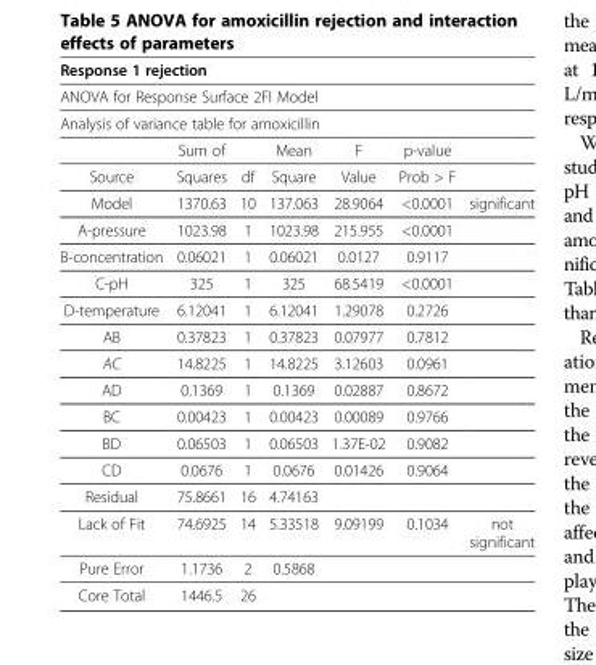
<table><thead><tr><td rowspan="3" colspan="7">Response 1 rejection ANOVA for Response Surface 2FI Model Analysis of variance table for amoxicillin</td></tr><tr></tr><tr></tr><tr><td></td><td>Sum of</td><td></td><td>Mean</td><td>F</td><td>p-value</td><td></td></tr></thead><tbody><tr><td>Source</td><td>Squares</td><td>df</td><td>Square</td><td>Value</td><td>Prob &gt; F</td><td></td></tr><tr><td>Model</td><td>1370.63</td><td>10</td><td>137.063</td><td>28.9064</td><td>&lt;0.0001</td><td>significant</td></tr><tr><td>A-pressure</td><td>1023.98</td><td>1</td><td>1023.98</td><td>215.955</td><td>&lt;0.0001</td><td></td></tr><tr><td>B-concentration</td><td>0.06021</td><td>1</td><td>0.06021</td><td>0.0127</td><td>0.9117</td><td></td></tr><tr><td>C-pH</td><td>325</td><td>1</td><td>325</td><td>68.5419</td><td>&lt;0.0001</td><td></td></tr><tr><td>D-temperature</td><td>6.12041</td><td>1</td><td>6.12041</td><td>1.29078</td><td>0.2726</td><td></td></tr><tr><td>AB</td><td>0.37823</td><td>1</td><td>0.37823</td><td>0.07977</td><td>0.7812</td><td></td></tr><tr><td>AC</td><td>14.8225</td><td>1</td><td>14.8225</td><td>3.12603</td><td>0.0961</td><td></td></tr><tr><td>AD</td><td>0.1369</td><td>1</td><td>0.1369</td><td>0.02887</td><td>0.8672</td><td></td></tr><tr><td>BC</td><td>0.00423</td><td>1</td><td>0.00423</td><td>0.00089</td><td>0.9766</td><td></td></tr><tr><td>BD</td><td>0.06503</td><td>1</td><td>0.06503</td><td>1.37E-02</td><td>0.9082</td><td></td></tr><tr><td>CD</td><td>0.0676</td><td>1</td><td>0.0676</td><td>0.01426</td><td>0.9064</td><td></td></tr><tr><td>Residual</td><td>75.8661</td><td>16</td><td>4.74163</td><td></td><td></td><td></td></tr><tr><td>Lack of Fit</td><td>74.6925</td><td>14</td><td>5.33518</td><td>9.09199</td><td>0.1034</td><td>not significant</td></tr><tr><td>Pure Error</td><td>1.1736</td><td>2</td><td>0.5868</td><td></td><td></td><td></td></tr><tr><td>Core Total</td><td>1446.5</td><td>26</td><td></td><td></td><td></td><td></td></tr></tbody></table>